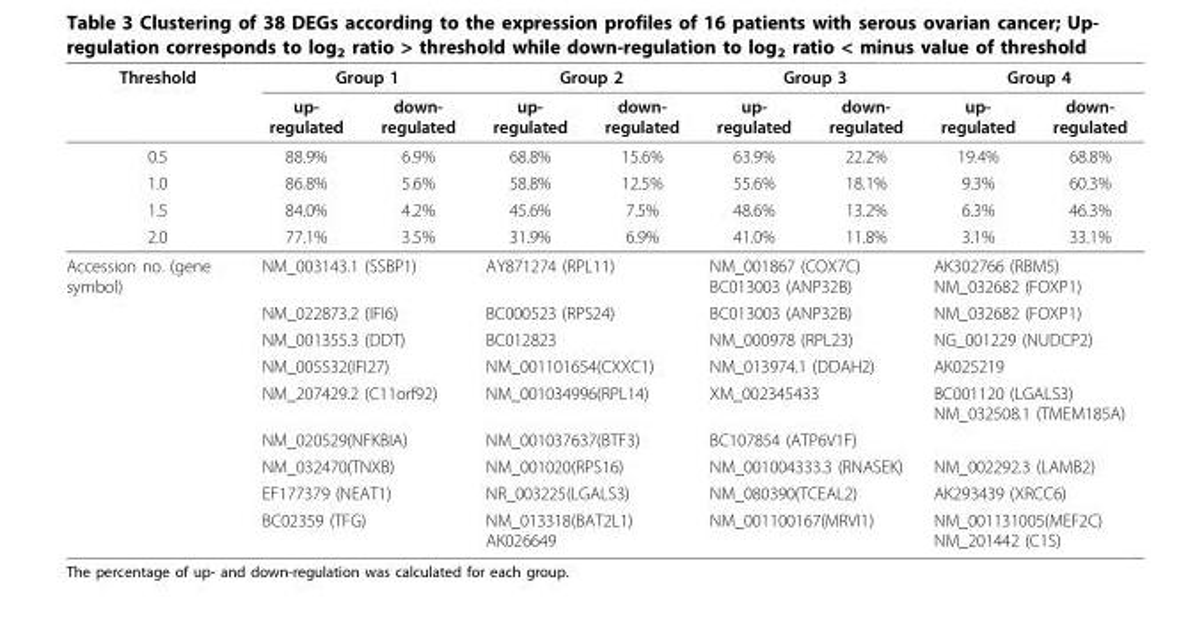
<table><thead><tr><td rowspan="2">Threshold</td><td colspan="2">Group 1</td><td colspan="2">Group 2</td><td colspan="2">Group 3</td><td colspan="2">Group 4</td></tr><tr><td>up- regulated</td><td>down- regulated</td><td>up- regulated</td><td>down- regulated</td><td>up- regulated</td><td>down- regulated</td><td>up- regulated</td><td>down- regulated</td></tr></thead><tbody><tr><td>0.5</td><td>88.9%</td><td>6.9%</td><td>68.8%</td><td>15.6%</td><td>63.9%</td><td>22.2%</td><td>19.4%</td><td>68.8%</td></tr><tr><td>1.0</td><td>86.8%</td><td>5.6%</td><td>58.8%</td><td>12.5%</td><td>55.6%</td><td>18.1%</td><td>9.3%</td><td>60.3%</td></tr><tr><td>1.5</td><td>84.0%</td><td>4.2%</td><td>45.6%</td><td>7.5%</td><td>48.6%</td><td>13.2%</td><td>6.3%</td><td>46.3%</td></tr><tr><td>2.0</td><td>77.1%</td><td>3.5%</td><td>31.9%</td><td>6.9%</td><td>41.0%</td><td>11.8%</td><td>3.1%</td><td>33.1%</td></tr><tr><td rowspan="9">Accession no. (gene symbol)</td><td colspan="2">NM_003143.1 (SSBP1)</td><td colspan="2">AY871274 (RPL11)</td><td colspan="2">NM_001867 (COX7C) BC013003 (ANP32B)</td><td colspan="2">AK302766 (RBM5) NM_032682 (FOXP1)</td></tr><tr><td colspan="2">NM_022873.2 (IFI6)</td><td colspan="2">BC000523 (RPS24)</td><td colspan="2">BC013003 (ANP32B)</td><td colspan="2">NM_032682 (FOXP1)</td></tr><tr><td colspan="2">NM_001355.3 (DDT)</td><td colspan="2">BC012823</td><td colspan="2">NM_000978 (RPL23)</td><td colspan="2">NG_001229 (NUDCP2)</td></tr><tr><td colspan="2">NM_005532(IFI27)</td><td colspan="2">NM_001101654(CXXC1)</td><td colspan="2">NM_013974.1 (DDAH2)</td><td colspan="2">AK025219</td></tr><tr><td colspan="2">NM_207429.2 (C11orf92)</td><td colspan="2">NM_001034996(RPL14)</td><td colspan="2">XM_002345433</td><td colspan="2">BC001120 (LGALS3) NM_032508.1 (TMEM185A)</td></tr><tr><td colspan="2">NM_020529(NFKBIA)</td><td colspan="2">NM_001037637(BTF3)</td><td colspan="2">BC107854 (ATP6V1F)</td><td colspan="2"></td></tr><tr><td colspan="2">NM_032470(TNXB)</td><td colspan="2">NM_001020(RPS16)</td><td colspan="2">NM_001004333.3 (RNASEK)</td><td colspan="2">NM_002292.3 (LAMB2)</td></tr><tr><td colspan="2">EF177379 (NEAT1)</td><td colspan="2">NR_003225(LGALS3)</td><td colspan="2">NM_080390(TCEAL2)</td><td colspan="2">AK293439 (XRCC6)</td></tr><tr><td colspan="2">BC02359 (TFG)</td><td colspan="2">NM_013318(BAT2L1) AK026649</td><td colspan="2">NM_001100167(MRVI1)</td><td colspan="2">NM_001131005(MEF2C) NM_201442 (C1S)</td></tr></tbody></table>